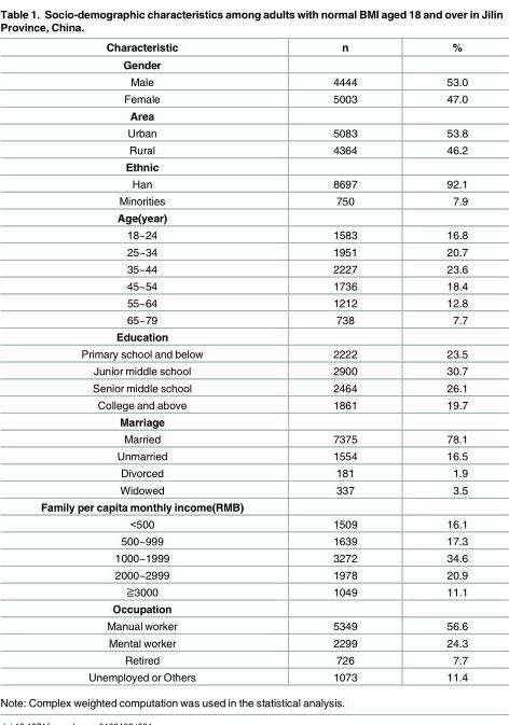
<table><thead><tr><td>Characteristic</td><td>n</td><td>%</td></tr></thead><tbody><tr><td colspan="3">Gender</td></tr><tr><td>Male</td><td>4444</td><td>53.0</td></tr><tr><td>Female</td><td>5003</td><td>47.0</td></tr><tr><td colspan="3">Area</td></tr><tr><td>Urban</td><td>5083</td><td>53.8</td></tr><tr><td>Rural</td><td>4364</td><td>46.2</td></tr><tr><td colspan="3">Ethnic</td></tr><tr><td>Han</td><td>8697</td><td>92.1</td></tr><tr><td>Minorities</td><td>750</td><td>7.9</td></tr><tr><td colspan="3">Age(year)</td></tr><tr><td>18~24</td><td>1583</td><td>16.8</td></tr><tr><td>25~34</td><td>1951</td><td>20.7</td></tr><tr><td>35~44</td><td>2227</td><td>23.6</td></tr><tr><td>45~54</td><td>1736</td><td>18.4</td></tr><tr><td>55~64</td><td>1212</td><td>12.8</td></tr><tr><td>65~79</td><td>738</td><td>7.7</td></tr><tr><td colspan="3">Education</td></tr><tr><td>Primary school and below</td><td>2222</td><td>23.5</td></tr><tr><td>Junior middle school</td><td>2900</td><td>30.7</td></tr><tr><td>Senior middle school</td><td>2464</td><td>26.1</td></tr><tr><td>College and above</td><td>1861</td><td>19.7</td></tr><tr><td colspan="3">Marriage</td></tr><tr><td>Married</td><td>7375</td><td>78.1</td></tr><tr><td>Unmarried</td><td>1554</td><td>16.5</td></tr><tr><td>Divorced</td><td>181</td><td>1.9</td></tr><tr><td>Widowed</td><td>337</td><td>3.5</td></tr><tr><td colspan="3">Family per capita monthly income(RMB)</td></tr><tr><td>&lt;500</td><td>1509</td><td>16.1</td></tr><tr><td>500~999</td><td>1639</td><td>17.3</td></tr><tr><td>1000~1999</td><td>3272</td><td>34.6</td></tr><tr><td>2000~2999</td><td>1978</td><td>20.9</td></tr><tr><td>≧3000</td><td>1049</td><td>11.1</td></tr><tr><td colspan="3">Occupation</td></tr><tr><td>Manual worker</td><td>5349</td><td>56.6</td></tr><tr><td>Mental worker</td><td>2299</td><td>24.3</td></tr><tr><td>Retired</td><td>726</td><td>7.7</td></tr><tr><td>Unemployed or Others</td><td>1073</td><td>11.4</td></tr></tbody></table>